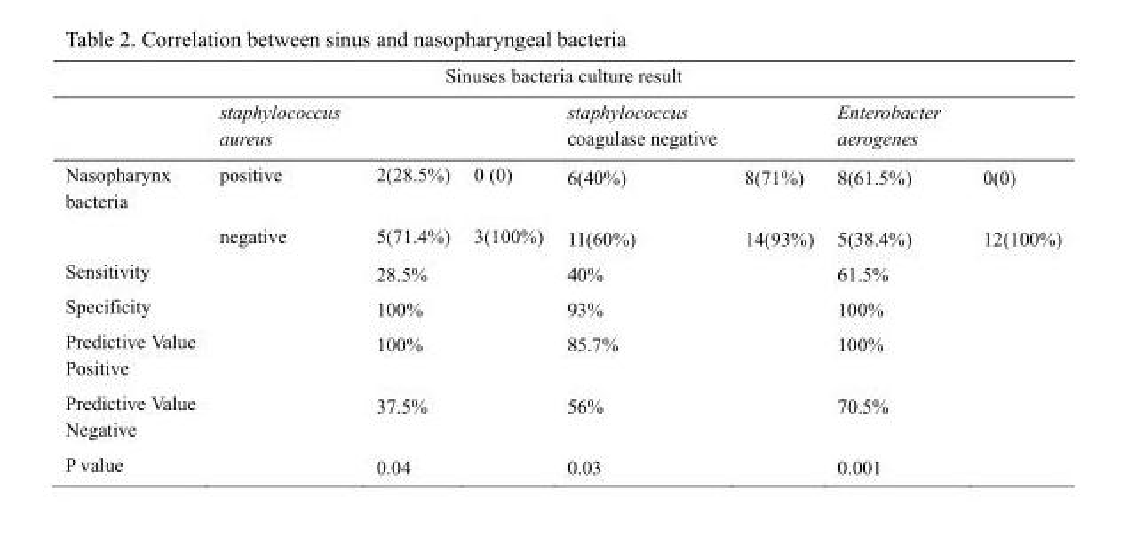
<table><thead><tr><td colspan="8">Sinuses bacteria culture result</td></tr><tr><td></td><td>staphylococcus aureus</td><td></td><td></td><td>staphylococcus coagulase negative</td><td></td><td>Enterobacter aerogenes</td><td></td></tr></thead><tbody><tr><td rowspan="2">Nasopharynx bacteria</td><td>positive</td><td>2(28.5%)</td><td>0 (0)</td><td>6(40%)</td><td>8(71%)</td><td>8(61.5%)</td><td>0(0)</td></tr><tr><td>negative</td><td>5(71.4%)</td><td>3(100%)</td><td>11(60%)</td><td>14(93%)</td><td>5(38.4%)</td><td>12(100%)</td></tr><tr><td>Sensitivity</td><td></td><td>28.5%</td><td></td><td>40%</td><td></td><td>61.5%</td><td></td></tr><tr><td>Specificity</td><td></td><td>100%</td><td></td><td>93%</td><td></td><td>100%</td><td></td></tr><tr><td>Predictive Value Positive</td><td></td><td>100%</td><td></td><td>85.7%</td><td></td><td>100%</td><td></td></tr><tr><td>Predictive Value Negative</td><td></td><td>37.5%</td><td></td><td>56%</td><td></td><td>70.5%</td><td></td></tr><tr><td>P value</td><td></td><td>0.04</td><td></td><td>0.03</td><td></td><td>0.001</td><td></td></tr></tbody></table>